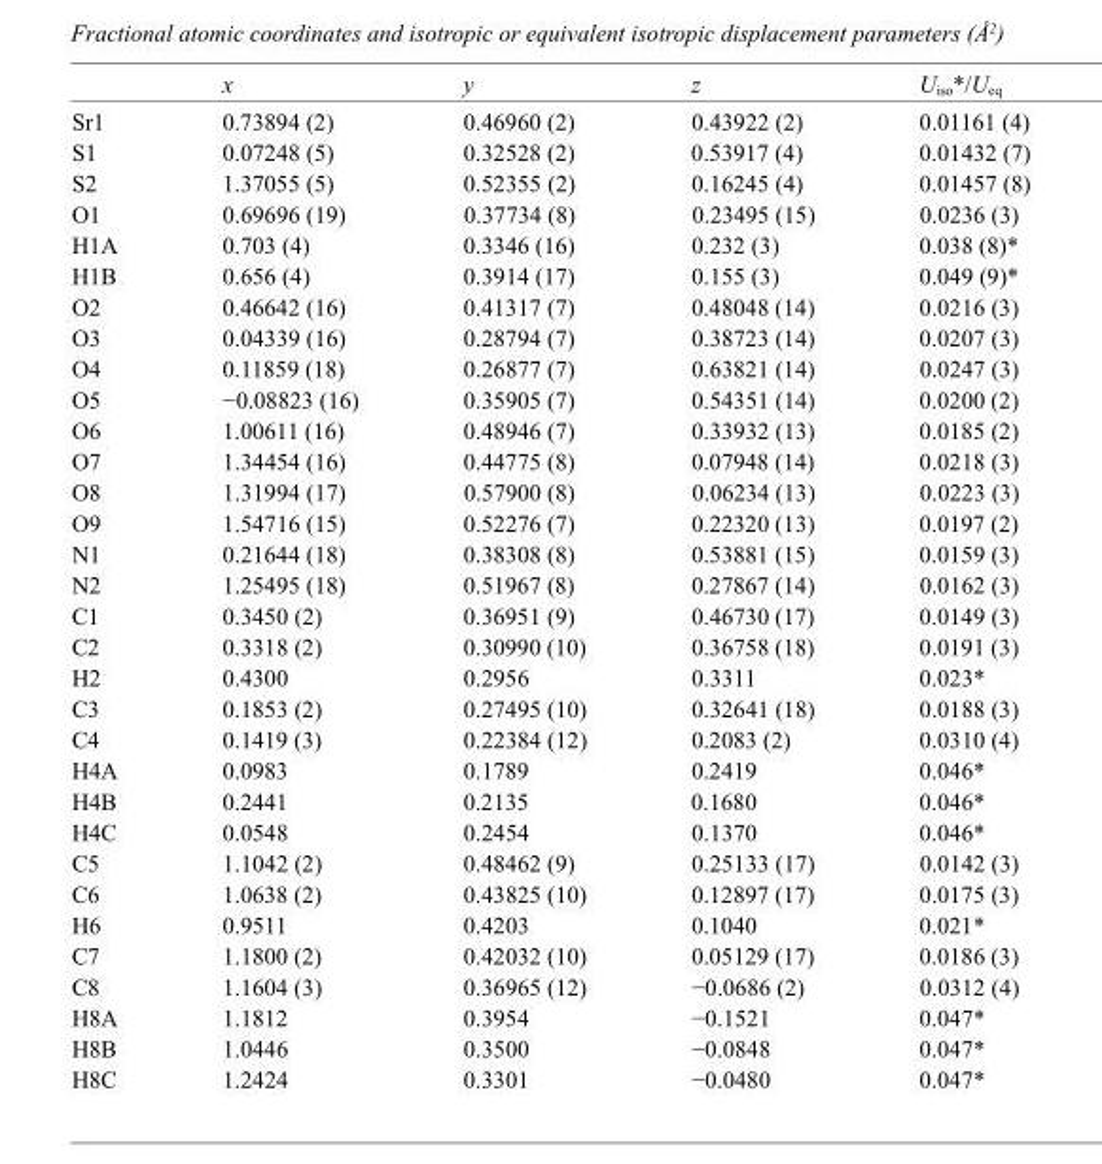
<table><thead><tr><td></td><td>x</td><td>y</td><td>z</td><td>U<sub>iso</sub>*/U<sub>eq</sub></td></tr></thead><tbody><tr><td>Sr1</td><td>0.73894 (2)</td><td>0.46960 (2)</td><td>0.43922 (2)</td><td>0.01161 (4)</td></tr><tr><td>S1</td><td>0.07248 (5)</td><td>0.32528 (2)</td><td>0.53917 (4)</td><td>0.01432 (7)</td></tr><tr><td>S2</td><td>1.37055 (5)</td><td>0.52355 (2)</td><td>0.16245 (4)</td><td>0.01457 (8)</td></tr><tr><td>O1</td><td>0.69696 (19)</td><td>0.37734 (8)</td><td>0.23495 (15)</td><td>0.0236 (3)</td></tr><tr><td>H1A</td><td>0.703 (4)</td><td>0.3346 (16)</td><td>0.232 (3)</td><td>0.038 (8)*</td></tr><tr><td>H1B</td><td>0.656 (4)</td><td>0.3914 (17)</td><td>0.155 (3)</td><td>0.049 (9)*</td></tr><tr><td>O2</td><td>0.46642 (16)</td><td>0.41317 (7)</td><td>0.48048 (14)</td><td>0.0216 (3)</td></tr><tr><td>O3</td><td>0.04339 (16)</td><td>0.28794 (7)</td><td>0.38723 (14)</td><td>0.0207 (3)</td></tr><tr><td>O4</td><td>0.11859 (18)</td><td>0.26877 (7)</td><td>0.63821 (14)</td><td>0.0247 (3)</td></tr><tr><td>O5</td><td>−0.08823 (16)</td><td>0.35905 (7)</td><td>0.54351 (14)</td><td>0.0200 (2)</td></tr><tr><td>O6</td><td>1.00611 (16)</td><td>0.48946 (7)</td><td>0.33932 (13)</td><td>0.0185 (2)</td></tr><tr><td>O7</td><td>1.34454 (16)</td><td>0.44775 (8)</td><td>0.07948 (14)</td><td>0.0218 (3)</td></tr><tr><td>O8</td><td>1.31994 (17)</td><td>0.57900 (8)</td><td>0.06234 (13)</td><td>0.0223 (3)</td></tr><tr><td>O9</td><td>1.54716 (15)</td><td>0.52276 (7)</td><td>0.22320 (13)</td><td>0.0197 (2)</td></tr><tr><td>N1</td><td>0.21644 (18)</td><td>0.38308 (8)</td><td>0.53881 (15)</td><td>0.0159 (3)</td></tr><tr><td>N2</td><td>1.25495 (18)</td><td>0.51967 (8)</td><td>0.27867 (14)</td><td>0.0162 (3)</td></tr><tr><td>C1</td><td>0.3450 (2)</td><td>0.36951 (9)</td><td>0.46730 (17)</td><td>0.0149 (3)</td></tr><tr><td>C2</td><td>0.3318 (2)</td><td>0.30990 (10)</td><td>0.36758 (18)</td><td>0.0191 (3)</td></tr><tr><td>H2</td><td>0.4300</td><td>0.2956</td><td>0.3311</td><td>0.023*</td></tr><tr><td>C3</td><td>0.1853 (2)</td><td>0.27495 (10)</td><td>0.32641 (18)</td><td>0.0188 (3)</td></tr><tr><td>C4</td><td>0.1419 (3)</td><td>0.22384 (12)</td><td>0.2083 (2)</td><td>0.0310 (4)</td></tr><tr><td>H4A</td><td>0.0983</td><td>0.1789</td><td>0.2419</td><td>0.046*</td></tr><tr><td>H4B</td><td>0.2441</td><td>0.2135</td><td>0.1680</td><td>0.046*</td></tr><tr><td>H4C</td><td>0.0548</td><td>0.2454</td><td>0.1370</td><td>0.046*</td></tr><tr><td>C5</td><td>1.1042 (2)</td><td>0.48462 (9)</td><td>0.25133 (17)</td><td>0.0142 (3)</td></tr><tr><td>C6</td><td>1.0638 (2)</td><td>0.43825 (10)</td><td>0.12897 (17)</td><td>0.0175 (3)</td></tr><tr><td>H6</td><td>0.9511</td><td>0.4203</td><td>0.1040</td><td>0.021*</td></tr><tr><td>C7</td><td>1.1800 (2)</td><td>0.42032 (10)</td><td>0.05129 (17)</td><td>0.0186 (3)</td></tr><tr><td>C8</td><td>1.1604 (3)</td><td>0.36965 (12)</td><td>−0.0686 (2)</td><td>0.0312 (4)</td></tr><tr><td>H8A</td><td>1.1812</td><td>0.3954</td><td>−0.1521</td><td>0.047*</td></tr><tr><td>H8B</td><td>1.0446</td><td>0.3500</td><td>−0.0848</td><td>0.047*</td></tr><tr><td>H8C</td><td>1.2424</td><td>0.3301</td><td>−0.0480</td><td>0.047*</td></tr></tbody></table>